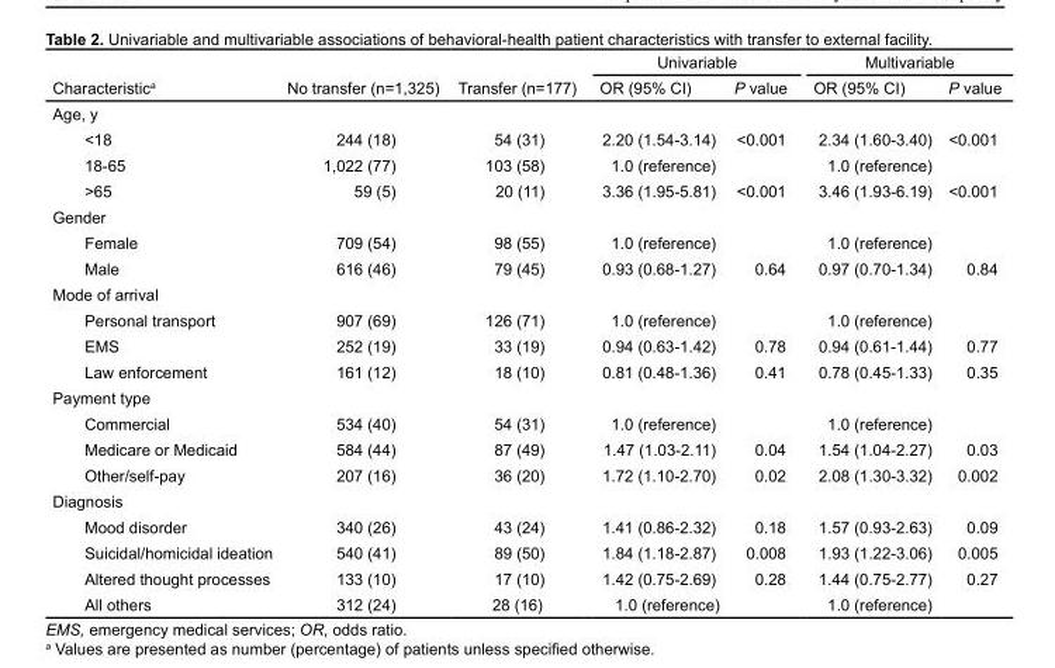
<table><thead><tr><td rowspan="2">Characteristic<sup>a</sup></td><td rowspan="2">No transfer (n=1,325)</td><td rowspan="2">Transfer (n=177)</td><td colspan="2">Univariable</td><td colspan="2">Multivariable</td></tr><tr><td>OR (95% CI)</td><td>P value</td><td>OR (95% CI)</td><td>P value</td></tr></thead><tbody><tr><td colspan="7">Age, y</td></tr><tr><td>&lt;18</td><td>244 (18)</td><td>54 (31)</td><td>2.20 (1.54-3.14)</td><td>&lt;0.001</td><td>2.34 (1.60-3.40)</td><td>&lt;0.001</td></tr><tr><td>18-65</td><td>1,022 (77)</td><td>103 (58)</td><td>1.0 (reference)</td><td></td><td>1.0 (reference)</td><td></td></tr><tr><td>&gt;65</td><td>59 (5)</td><td>20 (11)</td><td>3.36 (1.95-5.81)</td><td>&lt;0.001</td><td>3.46 (1.93-6.19)</td><td>&lt;0.001</td></tr><tr><td colspan="7">Gender</td></tr><tr><td>Female</td><td>709 (54)</td><td>98 (55)</td><td>1.0 (reference)</td><td></td><td>1.0 (reference)</td><td></td></tr><tr><td>Male</td><td>616 (46)</td><td>79 (45)</td><td>0.93 (0.68-1.27)</td><td>0.64</td><td>0.97 (0.70-1.34)</td><td>0.84</td></tr><tr><td colspan="7">Mode of arrival</td></tr><tr><td>Personal transport</td><td>907 (69)</td><td>126 (71)</td><td>1.0 (reference)</td><td></td><td>1.0 (reference)</td><td></td></tr><tr><td>EMS</td><td>252 (19)</td><td>33 (19)</td><td>0.94 (0.63-1.42)</td><td>0.78</td><td>0.94 (0.61-1.44)</td><td>0.77</td></tr><tr><td>Law enforcement</td><td>161 (12)</td><td>18 (10)</td><td>0.81 (0.48-1.36)</td><td>0.41</td><td>0.78 (0.45-1.33)</td><td>0.35</td></tr><tr><td colspan="7">Payment type</td></tr><tr><td>Commercial</td><td>534 (40)</td><td>54 (31)</td><td>1.0 (reference)</td><td></td><td>1.0 (reference)</td><td></td></tr><tr><td>Medicare or Medicaid</td><td>584 (44)</td><td>87 (49)</td><td>1.47 (1.03-2.11)</td><td>0.04</td><td>1.54 (1.04-2.27)</td><td>0.03</td></tr><tr><td>Other/self-pay</td><td>207 (16)</td><td>36 (20)</td><td>1.72 (1.10-2.70)</td><td>0.02</td><td>2.08 (1.30-3.32)</td><td>0.002</td></tr><tr><td colspan="7">Diagnosis</td></tr><tr><td>Mood disorder</td><td>340 (26)</td><td>43 (24)</td><td>1.41 (0.86-2.32)</td><td>0.18</td><td>1.57 (0.93-2.63)</td><td>0.09</td></tr><tr><td>Suicidal/homicidal ideation</td><td>540 (41)</td><td>89 (50)</td><td>1.84 (1.18-2.87)</td><td>0.008</td><td>1.93 (1.22-3.06)</td><td>0.005</td></tr><tr><td>Altered thought processes</td><td>133 (10)</td><td>17 (10)</td><td>1.42 (0.75-2.69)</td><td>0.28</td><td>1.44 (0.75-2.77)</td><td>0.27</td></tr><tr><td>All others</td><td>312 (24)</td><td>28 (16)</td><td>1.0 (reference)</td><td></td><td>1.0 (reference)</td><td></td></tr></tbody></table>